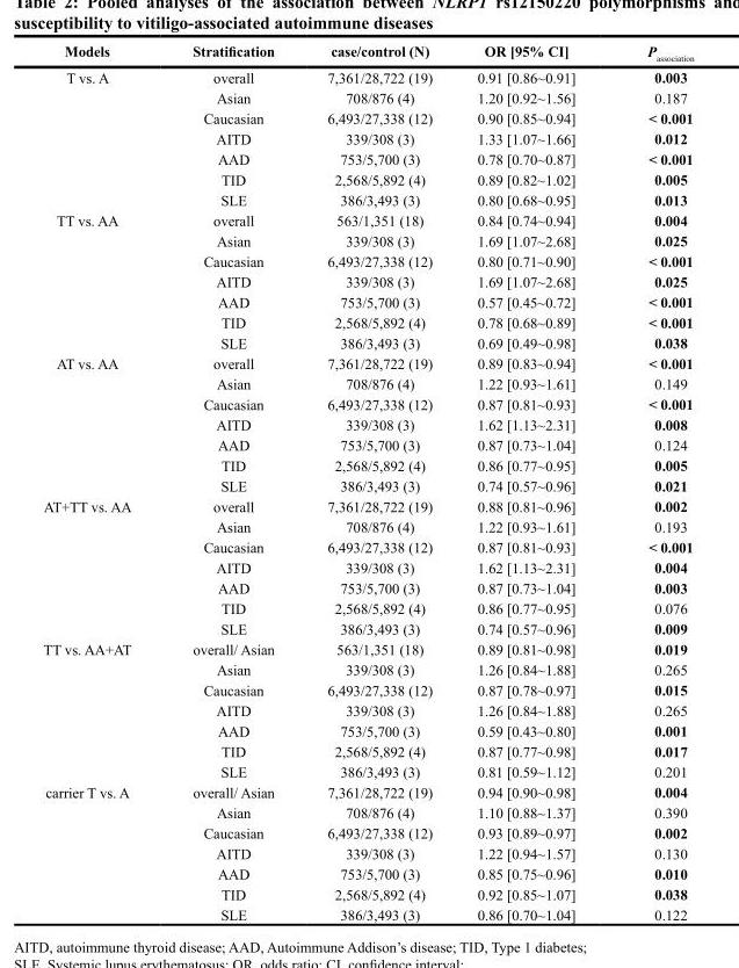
<table><thead><tr><td>Models</td><td>Stratification</td><td>case/control (N)</td><td>OR [95% CI]</td><td>P<sub>association</sub></td></tr></thead><tbody><tr><td rowspan="7">T vs. A</td><td>overall</td><td>7,361/28,722 (19)</td><td>0.91 [0.86~0.91]</td><td>0.003</td></tr><tr><td>Asian</td><td>708/876 (4)</td><td>1.20 [0.92~1.56]</td><td>0.187</td></tr><tr><td>Caucasian</td><td>6,493/27,338 (12)</td><td>0.90 [0.85~0.94]</td><td>&lt; 0.001</td></tr><tr><td>AITD</td><td>339/308 (3)</td><td>1.33 [1.07~1.66]</td><td>0.012</td></tr><tr><td>AAD</td><td>753/5,700 (3)</td><td>0.78 [0.70~0.87]</td><td>&lt; 0.001</td></tr><tr><td>TID</td><td>2,568/5,892 (4)</td><td>0.89 [0.82~1.02]</td><td>0.005</td></tr><tr><td>SLE</td><td>386/3,493 (3)</td><td>0.80 [0.68~0.95]</td><td>0.013</td></tr><tr><td rowspan="7">TT vs. AA</td><td>overall</td><td>563/1,351 (18)</td><td>0.84 [0.74~0.94]</td><td>0.004</td></tr><tr><td>Asian</td><td>339/308 (3)</td><td>1.69 [1.07~2.68]</td><td>0.025</td></tr><tr><td>Caucasian</td><td>6,493/27,338 (12)</td><td>0.80 [0.71~0.90]</td><td>&lt; 0.001</td></tr><tr><td>AITD</td><td>339/308 (3)</td><td>1.69 [1.07~2.68]</td><td>0.025</td></tr><tr><td>AAD</td><td>753/5,700 (3)</td><td>0.57 [0.45~0.72]</td><td>&lt; 0.001</td></tr><tr><td>TID</td><td>2,568/5,892 (4)</td><td>0.78 [0.68~0.89]</td><td>&lt; 0.001</td></tr><tr><td>SLE</td><td>386/3,493 (3)</td><td>0.69 [0.49~0.98]</td><td>0.038</td></tr><tr><td rowspan="7">AT vs. AA</td><td>overall</td><td>7,361/28,722 (19)</td><td>0.89 [0.83~0.94]</td><td>&lt; 0.001</td></tr><tr><td>Asian</td><td>708/876 (4)</td><td>1.22 [0.93~1.61]</td><td>0.149</td></tr><tr><td>Caucasian</td><td>6,493/27,338 (12)</td><td>0.87 [0.81~0.93]</td><td>&lt; 0.001</td></tr><tr><td>AITD</td><td>339/308 (3)</td><td>1.62 [1.13~2.31]</td><td>0.008</td></tr><tr><td>AAD</td><td>753/5,700 (3)</td><td>0.87 [0.73~1.04]</td><td>0.124</td></tr><tr><td>TID</td><td>2,568/5,892 (4)</td><td>0.86 [0.77~0.95]</td><td>0.005</td></tr><tr><td>SLE</td><td>386/3,493 (3)</td><td>0.74 [0.57~0.96]</td><td>0.021</td></tr><tr><td rowspan="7">AT+TT vs. AA</td><td>overall</td><td>7,361/28,722 (19)</td><td>0.88 [0.81~0.96]</td><td>0.002</td></tr><tr><td>Asian</td><td>708/876 (4)</td><td>1.22 [0.93~1.61]</td><td>0.193</td></tr><tr><td>Caucasian</td><td>6,493/27,338 (12)</td><td>0.87 [0.81~0.93]</td><td>&lt; 0.001</td></tr><tr><td>AITD</td><td>339/308 (3)</td><td>1.62 [1.13~2.31]</td><td>0.004</td></tr><tr><td>AAD</td><td>753/5,700 (3)</td><td>0.87 [0.73~1.04]</td><td>0.003</td></tr><tr><td>TID</td><td>2,568/5,892 (4)</td><td>0.86 [0.77~0.95]</td><td>0.076</td></tr><tr><td>SLE</td><td>386/3,493 (3)</td><td>0.74 [0.57~0.96]</td><td>0.009</td></tr><tr><td rowspan="7">TT vs. AA+AT</td><td>overall/ Asian</td><td>563/1,351 (18)</td><td>0.89 [0.81~0.98]</td><td>0.019</td></tr><tr><td>Asian</td><td>339/308 (3)</td><td>1.26 [0.84~1.88]</td><td>0.265</td></tr><tr><td>Caucasian</td><td>6,493/27,338 (12)</td><td>0.87 [0.78~0.97]</td><td>0.015</td></tr><tr><td>AITD</td><td>339/308 (3)</td><td>1.26 [0.84~1.88]</td><td>0.265</td></tr><tr><td>AAD</td><td>753/5,700 (3)</td><td>0.59 [0.43~0.80]</td><td>0.001</td></tr><tr><td>TID</td><td>2,568/5,892 (4)</td><td>0.87 [0.77~0.98]</td><td>0.017</td></tr><tr><td>SLE</td><td>386/3,493 (3)</td><td>0.81 [0.59~1.12]</td><td>0.201</td></tr><tr><td rowspan="7">carrier T vs. A</td><td>overall/ Asian</td><td>7,361/28,722 (19)</td><td>0.94 [0.90~0.98]</td><td>0.004</td></tr><tr><td>Asian</td><td>708/876 (4)</td><td>1.10 [0.88~1.37]</td><td>0.390</td></tr><tr><td>Caucasian</td><td>6,493/27,338 (12)</td><td>0.93 [0.89~0.97]</td><td>0.002</td></tr><tr><td>AITD</td><td>339/308 (3)</td><td>1.22 [0.94~1.57]</td><td>0.130</td></tr><tr><td>AAD</td><td>753/5,700 (3)</td><td>0.85 [0.75~0.96]</td><td>0.010</td></tr><tr><td>TID</td><td>2,568/5,892 (4)</td><td>0.92 [0.85~1.07]</td><td>0.038</td></tr><tr><td>SLE</td><td>386/3,493 (3)</td><td>0.86 [0.70~1.04]</td><td>0.122</td></tr></tbody></table>